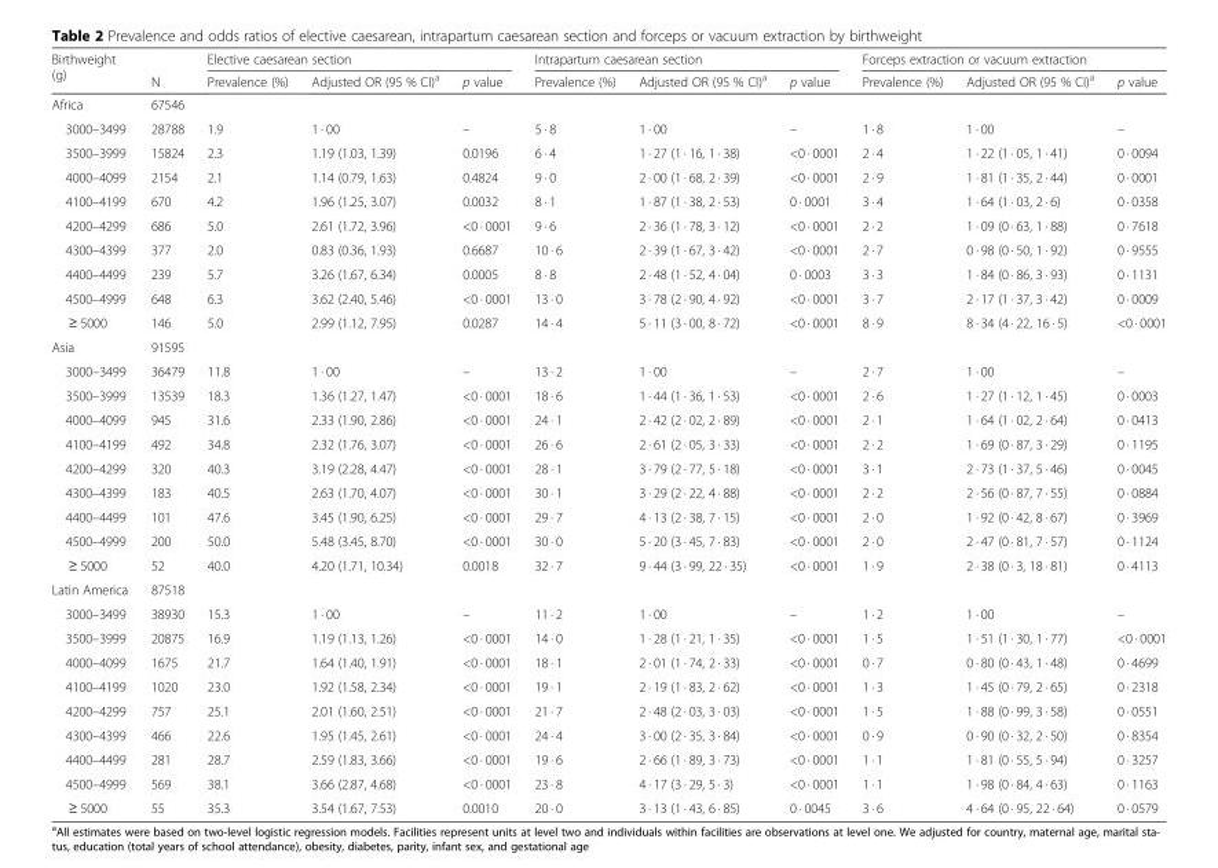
<table><thead><tr><td rowspan="2">Birthweight (g)</td><td rowspan="2">N</td><td colspan="3">Elective caesarean section</td><td colspan="3">Intrapartum caesarean section</td><td colspan="3">Forceps extraction or vacuum extraction</td></tr><tr><td>Prevalence (%)</td><td>Adjusted OR (95 % CI)<sup>a</sup></td><td>p value</td><td>Prevalence (%)</td><td>Adjusted OR (95 % CI)<sup>a</sup></td><td>p value</td><td>Prevalence (%)</td><td>Adjusted OR (95 % CI)<sup>a</sup></td><td>p value</td></tr></thead><tbody><tr><td>Africa</td><td>67546</td><td></td><td></td><td></td><td></td><td></td><td></td><td></td><td></td><td></td></tr><tr><td>3000–3499</td><td>28788</td><td>1.9</td><td>1 · 00</td><td>–</td><td>5 · 8</td><td>1 · 00</td><td>–</td><td>1 · 8</td><td>1 · 00</td><td>–</td></tr><tr><td>3500–3999</td><td>15824</td><td>2.3</td><td>1.19 (1.03, 1.39)</td><td>0.0196</td><td>6 · 4</td><td>1 · 27 (1 · 16, 1 · 38)</td><td>&lt;0 · 0001</td><td>2 · 4</td><td>1 · 22 (1 · 05, 1 · 41)</td><td>0 · 0094</td></tr><tr><td>4000–4099</td><td>2154</td><td>2.1</td><td>1.14 (0.79, 1.63)</td><td>0.4824</td><td>9 · 0</td><td>2 · 00 (1 · 68, 2 · 39)</td><td>&lt;0 · 0001</td><td>2 · 9</td><td>1 · 81 (1 · 35, 2 · 44)</td><td>0 · 0001</td></tr><tr><td>4100–4199</td><td>670</td><td>4.2</td><td>1.96 (1.25, 3.07)</td><td>0.0032</td><td>8 · 1</td><td>1 · 87 (1 · 38, 2 · 53)</td><td>0 · 0001</td><td>3 · 4</td><td>1 · 64 (1 · 03, 2 · 6)</td><td>0 · 0358</td></tr><tr><td>4200–4299</td><td>686</td><td>5.0</td><td>2.61 (1.72, 3.96)</td><td>&lt;0 · 0001</td><td>9 · 6</td><td>2 · 36 (1 · 78, 3 · 12)</td><td>&lt;0 · 0001</td><td>2 · 2</td><td>1 · 09 (0 · 63, 1 · 88)</td><td>0 · 7618</td></tr><tr><td>4300–4399</td><td>377</td><td>2.0</td><td>0.83 (0.36, 1.93)</td><td>0.6687</td><td>10 · 6</td><td>2 · 39 (1 · 67, 3 · 42)</td><td>&lt;0 · 0001</td><td>2 · 7</td><td>0 · 98 (0 · 50, 1 · 92)</td><td>0 · 9555</td></tr><tr><td>4400–4499</td><td>239</td><td>5.7</td><td>3.26 (1.67, 6.34)</td><td>0.0005</td><td>8 · 8</td><td>2 · 48 (1 · 52, 4 · 04)</td><td>0 · 0003</td><td>3 · 3</td><td>1 · 84 (0 · 86, 3 · 93)</td><td>0 · 1131</td></tr><tr><td>4500–4999</td><td>648</td><td>6.3</td><td>3.62 (2.40, 5.46)</td><td>&lt;0 · 0001</td><td>13 · 0</td><td>3 · 78 (2 · 90, 4 · 92)</td><td>&lt;0 · 0001</td><td>3 · 7</td><td>2 · 17 (1 · 37, 3 · 42)</td><td>0 · 0009</td></tr><tr><td>≥ 5000</td><td>146</td><td>5.0</td><td>2.99 (1.12, 7.95)</td><td>0.0287</td><td>14 · 4</td><td>5 · 11 (3 · 00, 8 · 72)</td><td>&lt;0 · 0001</td><td>8 · 9</td><td>8 · 34 (4 · 22, 16 · 5)</td><td>&lt;0 · 0001</td></tr><tr><td>Asia</td><td>91595</td><td></td><td></td><td></td><td></td><td></td><td></td><td></td><td></td><td></td></tr><tr><td>3000–3499</td><td>36479</td><td>11.8</td><td>1 · 00</td><td>–</td><td>13 · 2</td><td>1 · 00</td><td>–</td><td>2 · 7</td><td>1 · 00</td><td>–</td></tr><tr><td>3500–3999</td><td>13539</td><td>18.3</td><td>1.36 (1.27, 1.47)</td><td>&lt;0 · 0001</td><td>18 · 6</td><td>1 · 44 (1 · 36, 1 · 53)</td><td>&lt;0 · 0001</td><td>2 · 6</td><td>1 · 27 (1 · 12, 1 · 45)</td><td>0 · 0003</td></tr><tr><td>4000–4099</td><td>945</td><td>31.6</td><td>2.33 (1.90, 2.86)</td><td>&lt;0 · 0001</td><td>24 · 1</td><td>2 · 42 (2 · 02, 2 · 89)</td><td>&lt;0 · 0001</td><td>2 · 1</td><td>1 · 64 (1 · 02, 2 · 64)</td><td>0 · 0413</td></tr><tr><td>4100–4199</td><td>492</td><td>34.8</td><td>2.32 (1.76, 3.07)</td><td>&lt;0 · 0001</td><td>26 · 6</td><td>2 · 61 (2 · 05, 3 · 33)</td><td>&lt;0 · 0001</td><td>2 · 2</td><td>1 · 69 (0 · 87, 3 · 29)</td><td>0 · 1195</td></tr><tr><td>4200–4299</td><td>320</td><td>40.3</td><td>3.19 (2.28, 4.47)</td><td>&lt;0 · 0001</td><td>28 · 1</td><td>3 · 79 (2 · 77, 5 · 18)</td><td>&lt;0 · 0001</td><td>3 · 1</td><td>2 · 73 (1 · 37, 5 · 46)</td><td>0 · 0045</td></tr><tr><td>4300–4399</td><td>183</td><td>40.5</td><td>2.63 (1.70, 4.07)</td><td>&lt;0 · 0001</td><td>30 · 1</td><td>3 · 29 (2 · 22, 4 · 88)</td><td>&lt;0 · 0001</td><td>2 · 2</td><td>2 · 56 (0 · 87, 7 · 55)</td><td>0 · 0884</td></tr><tr><td>4400–4499</td><td>101</td><td>47.6</td><td>3.45 (1.90, 6.25)</td><td>&lt;0 · 0001</td><td>29 · 7</td><td>4 · 13 (2 · 38, 7 · 15)</td><td>&lt;0 · 0001</td><td>2 · 0</td><td>1 · 92 (0 · 42, 8 · 67)</td><td>0 · 3969</td></tr><tr><td>4500–4999</td><td>200</td><td>50.0</td><td>5.48 (3.45, 8.70)</td><td>&lt;0 · 0001</td><td>30 · 0</td><td>5 · 20 (3 · 45, 7 · 83)</td><td>&lt;0 · 0001</td><td>2 · 0</td><td>2 · 47 (0 · 81, 7 · 57)</td><td>0 · 1124</td></tr><tr><td>≥ 5000</td><td>52</td><td>40.0</td><td>4.20 (1.71, 10.34)</td><td>0.0018</td><td>32 · 7</td><td>9 · 44 (3 · 99, 22 · 35)</td><td>&lt;0 · 0001</td><td>1 · 9</td><td>2 · 38 (0 · 3, 18 · 81)</td><td>0 · 4113</td></tr><tr><td>Latin America</td><td>87518</td><td></td><td></td><td></td><td></td><td></td><td></td><td></td><td></td><td></td></tr><tr><td>3000–3499</td><td>38930</td><td>15.3</td><td>1 · 00</td><td>–</td><td>11 · 2</td><td>1 · 00</td><td>–</td><td>1 · 2</td><td>1 · 00</td><td>–</td></tr><tr><td>3500–3999</td><td>20875</td><td>16.9</td><td>1.19 (1.13, 1.26)</td><td>&lt;0 · 0001</td><td>14 · 0</td><td>1 · 28 (1 · 21, 1 · 35)</td><td>&lt;0 · 0001</td><td>1 · 5</td><td>1 · 51 (1 · 30, 1 · 77)</td><td>&lt;0 · 0001</td></tr><tr><td>4000–4099</td><td>1675</td><td>21.7</td><td>1.64 (1.40, 1.91)</td><td>&lt;0 · 0001</td><td>18 · 1</td><td>2 · 01 (1 · 74, 2 · 33)</td><td>&lt;0 · 0001</td><td>0 · 7</td><td>0 · 80 (0 · 43, 1 · 48)</td><td>0 · 4699</td></tr><tr><td>4100–4199</td><td>1020</td><td>23.0</td><td>1.92 (1.58, 2.34)</td><td>&lt;0 · 0001</td><td>19 · 1</td><td>2 · 19 (1 · 83, 2 · 62)</td><td>&lt;0 · 0001</td><td>1 · 3</td><td>1 · 45 (0 · 79, 2 · 65)</td><td>0 · 2318</td></tr><tr><td>4200–4299</td><td>757</td><td>25.1</td><td>2.01 (1.60, 2.51)</td><td>&lt;0 · 0001</td><td>21 · 7</td><td>2 · 48 (2 · 03, 3 · 03)</td><td>&lt;0 · 0001</td><td>1 · 5</td><td>1 · 88 (0 · 99, 3 · 58)</td><td>0 · 0551</td></tr><tr><td>4300–4399</td><td>466</td><td>22.6</td><td>1.95 (1.45, 2.61)</td><td>&lt;0 · 0001</td><td>24 · 4</td><td>3 · 00 (2 · 35, 3 · 84)</td><td>&lt;0 · 0001</td><td>0 · 9</td><td>0 · 90 (0 · 32, 2 · 50)</td><td>0 · 8354</td></tr><tr><td>4400–4499</td><td>281</td><td>28.7</td><td>2.59 (1.83, 3.66)</td><td>&lt;0 · 0001</td><td>19 · 6</td><td>2 · 66 (1 · 89, 3 · 73)</td><td>&lt;0 · 0001</td><td>1 · 1</td><td>1 · 81 (0 · 55, 5 · 94)</td><td>0 · 3257</td></tr><tr><td>4500–4999</td><td>569</td><td>38.1</td><td>3.66 (2.87, 4.68)</td><td>&lt;0 · 0001</td><td>23 · 8</td><td>4 · 17 (3 · 29, 5 · 3)</td><td>&lt;0 · 0001</td><td>1 · 1</td><td>1 · 98 (0 · 84, 4 · 63)</td><td>0 · 1163</td></tr><tr><td>≥ 5000</td><td>55</td><td>35.3</td><td>3.54 (1.67, 7.53)</td><td>0.0010</td><td>20 · 0</td><td>3 · 13 (1 · 43, 6 · 85)</td><td>0 · 0045</td><td>3 · 6</td><td>4 · 64 (0 · 95, 22 · 64)</td><td>0 · 0579</td></tr></tbody></table>